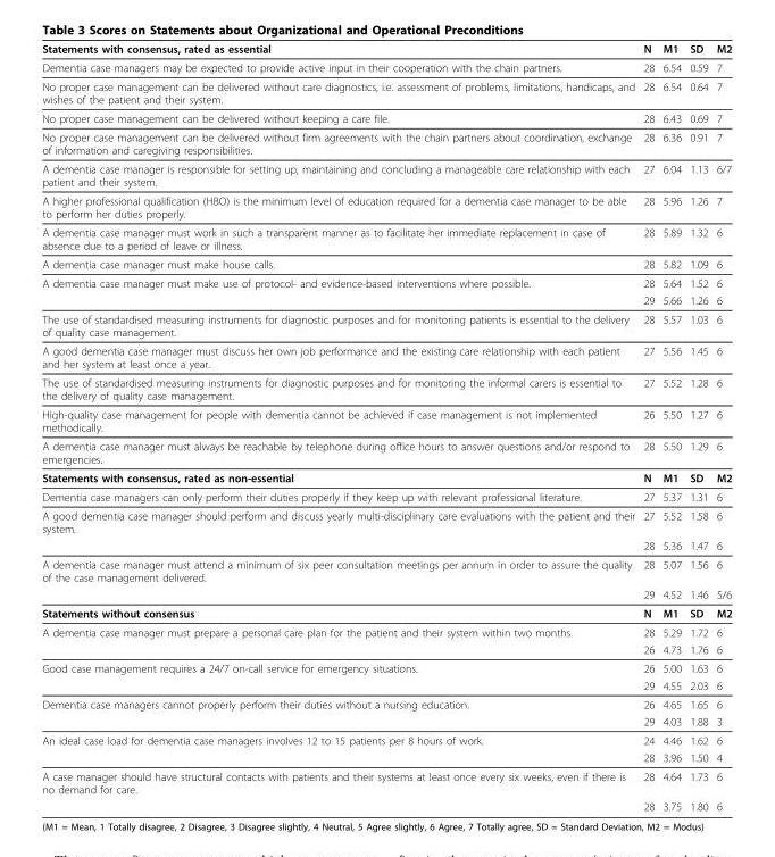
<table><thead><tr><td>Statements with consensus, rated as essential</td><td>N</td><td>M1</td><td>SD</td><td>M2</td></tr></thead><tbody><tr><td>Dementia case managers may be expected to provide active input in their cooperation with the chain partners.</td><td>28</td><td>6.54</td><td>0.59</td><td>7</td></tr><tr><td>No proper case management can be delivered without care diagnostics, i.e. assessment of problems, limitations, handicaps, and wishes of the patient and their system.</td><td>28</td><td>6.54</td><td>0.64</td><td>7</td></tr><tr><td>No proper case management can be delivered without keeping a care file.</td><td>28</td><td>6.43</td><td>0.69</td><td>7</td></tr><tr><td>No proper case management can be delivered without firm agreements with the chain partners about coordination, exchange of information and caregiving responsibilities.</td><td>28</td><td>6.36</td><td>0.91</td><td>7</td></tr><tr><td>A dementia case manager is responsible for setting up, maintaining and concluding a manageable care relationship with each patient and their system.</td><td>27</td><td>6.04</td><td>1.13</td><td>6/7</td></tr><tr><td>A higher professional qualification (HBO) is the minimum level of education required for a dementia case manager to be able to perform her duties properly.</td><td>28</td><td>5.96</td><td>1.26</td><td>7</td></tr><tr><td>A dementia case manager must work in such a transparent manner as to facilitate her immediate replacement in case of absence due to a period of leave or illness.</td><td>28</td><td>5.89</td><td>1.32</td><td>6</td></tr><tr><td>A dementia case manager must make house calls.</td><td>28</td><td>5.82</td><td>1.09</td><td>6</td></tr><tr><td rowspan="2">A dementia case manager must make use of protocol- and evidence-based interventions where possible.</td><td>28</td><td>5.64</td><td>1.52</td><td>6</td></tr><tr><td>29</td><td>5.66</td><td>1.26</td><td>6</td></tr><tr><td>The use of standardised measuring instruments for diagnostic purposes and for monitoring patients is essential to the delivery of quality case management.</td><td>28</td><td>5.57</td><td>1.03</td><td>6</td></tr><tr><td>A good dementia case manager must discuss her own job performance and the existing care relationship with each patient and her system at least once a year.</td><td>27</td><td>5.56</td><td>1.45</td><td>6</td></tr><tr><td>The use of standardised measuring instruments for diagnostic purposes and for monitoring the informal carers is essential to the delivery of quality case management.</td><td>27</td><td>5.52</td><td>1.28</td><td>6</td></tr><tr><td>High-quality case management for people with dementia cannot be achieved if case management is not implemented methodically.</td><td>26</td><td>5.50</td><td>1.27</td><td>6</td></tr><tr><td>A dementia case manager must always be reachable by telephone during office hours to answer questions and/or respond to emergencies.</td><td>28</td><td>5.50</td><td>1.29</td><td>6</td></tr><tr><td>Statements with consensus, rated as non-essential</td><td>N</td><td>M1</td><td>SD</td><td>M2</td></tr><tr><td>Dementia case managers can only perform their duties properly if they keep up with relevant professional literature.</td><td>27</td><td>5.37</td><td>1.31</td><td>6</td></tr><tr><td rowspan="2">A good dementia case manager should perform and discuss yearly multi-disciplinary care evaluations with the patient and their system.</td><td>27</td><td>5.52</td><td>1.58</td><td>6</td></tr><tr><td>28</td><td>5.36</td><td>1.47</td><td>6</td></tr><tr><td rowspan="2">A dementia case manager must attend a minimum of six peer consultation meetings per annum in order to assure the quality of the case management delivered.</td><td>28</td><td>5.07</td><td>1.56</td><td>6</td></tr><tr><td>29</td><td>4.52</td><td>1.46</td><td>5/6</td></tr><tr><td>Statements without consensus</td><td>N</td><td>M1</td><td>SD</td><td>M2</td></tr><tr><td rowspan="2">A dementia case manager must prepare a personal care plan for the patient and their system within two months.</td><td>28</td><td>5.29</td><td>1.72</td><td>6</td></tr><tr><td>26</td><td>4.73</td><td>1.76</td><td>6</td></tr><tr><td rowspan="2">Good case management requires a 24/7 on-call service for emergency situations.</td><td>26</td><td>5.00</td><td>1.63</td><td>6</td></tr><tr><td>29</td><td>4.55</td><td>2.03</td><td>6</td></tr><tr><td rowspan="2">Dementia case managers cannot properly perform their duties without a nursing education.</td><td>26</td><td>4.65</td><td>1.65</td><td>6</td></tr><tr><td>29</td><td>4.03</td><td>1.88</td><td>3</td></tr><tr><td rowspan="2">An ideal case load for dementia case managers involves 12 to 15 patients per 8 hours of work.</td><td>24</td><td>4.46</td><td>1.62</td><td>6</td></tr><tr><td>28</td><td>3.96</td><td>1.50</td><td>4</td></tr><tr><td rowspan="2">A case manager should have structural contacts with patients and their systems at least once every six weeks, even if there is no demand for care.</td><td>28</td><td>4.64</td><td>1.73</td><td>6</td></tr><tr><td>28</td><td>3.75</td><td>1.80</td><td>6</td></tr></tbody></table>